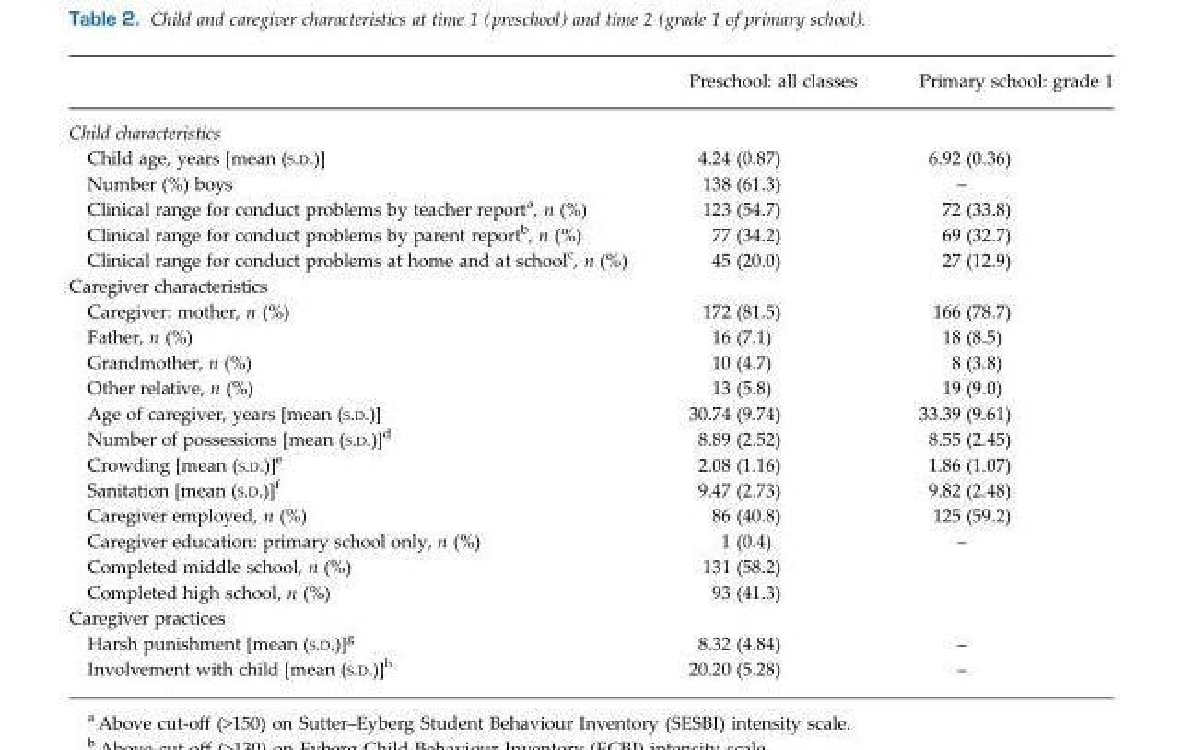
<table><thead><tr><td></td><td>Preschool: all classes</td><td>Primary school: grade 1</td></tr></thead><tbody><tr><td colspan="3">Child characteristics</td></tr><tr><td>Child age, years [mean (S.D.)]</td><td>4.24 (0.87)</td><td>6.92 (0.36)</td></tr><tr><td>Number (%) boys</td><td>138 (61.3)</td><td>–</td></tr><tr><td>Clinical range for conduct problems by teacher report<sup>a</sup>, n (%)</td><td>123 (54.7)</td><td>72 (33.8)</td></tr><tr><td>Clinical range for conduct problems by parent report<sup>b</sup>, n (%)</td><td>77 (34.2)</td><td>69 (32.7)</td></tr><tr><td>Clinical range for conduct problems at home and at school<sup>c</sup>, n (%)</td><td>45 (20.0)</td><td>27 (12.9)</td></tr><tr><td colspan="3">Caregiver characteristics</td></tr><tr><td>Caregiver: mother, n (%)</td><td>172 (81.5)</td><td>166 (78.7)</td></tr><tr><td>Father, n (%)</td><td>16 (7.1)</td><td>18 (8.5)</td></tr><tr><td>Grandmother, n (%)</td><td>10 (4.7)</td><td>8 (3.8)</td></tr><tr><td>Other relative, n (%)</td><td>13 (5.8)</td><td>19 (9.0)</td></tr><tr><td>Age of caregiver, years [mean (S.D.)]</td><td>30.74 (9.74)</td><td>33.39 (9.61)</td></tr><tr><td>Number of possessions [mean (S.D.)]<sup>d</sup></td><td>8.89 (2.52)</td><td>8.55 (2.45)</td></tr><tr><td>Crowding [mean (S.D.)]<sup>e</sup></td><td>2.08 (1.16)</td><td>1.86 (1.07)</td></tr><tr><td>Sanitation [mean (S.D.)]<sup>f</sup></td><td>9.47 (2.73)</td><td>9.82 (2.48)</td></tr><tr><td>Caregiver employed, n (%)</td><td>86 (40.8)</td><td>125 (59.2)</td></tr><tr><td>Caregiver education: primary school only, n (%)</td><td>1 (0.4)</td><td>–</td></tr><tr><td>Completed middle school, n (%)</td><td>131 (58.2)</td><td></td></tr><tr><td>Completed high school, n (%)</td><td>93 (41.3)</td><td></td></tr><tr><td colspan="3">Caregiver practices</td></tr><tr><td>Harsh punishment [mean (S.D.)]<sup>g</sup></td><td>8.32 (4.84)</td><td>–</td></tr><tr><td>Involvement with child [mean (S.D.)]<sup>h</sup></td><td>20.20 (5.28)</td><td>–</td></tr></tbody></table>